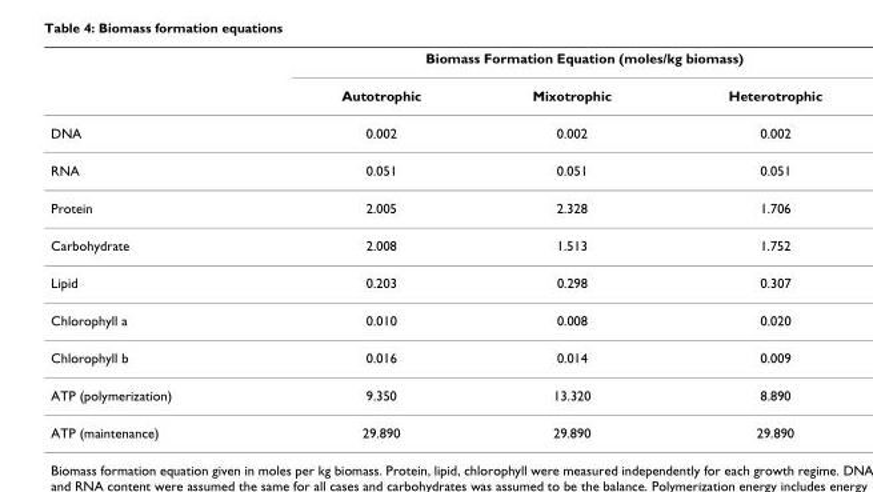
<table><thead><tr><td rowspan="2"></td><td colspan="3">Biomass Formation Equation (moles/kg biomass)</td></tr><tr><td>Autotrophic</td><td>Mixotrophic</td><td>Heterotrophic</td></tr></thead><tbody><tr><td>DNA</td><td>0.002</td><td>0.002</td><td>0.002</td></tr><tr><td>RNA</td><td>0.051</td><td>0.051</td><td>0.051</td></tr><tr><td>Protein</td><td>2.005</td><td>2.328</td><td>1.706</td></tr><tr><td>Carbohydrate</td><td>2.008</td><td>1.513</td><td>1.752</td></tr><tr><td>Lipid</td><td>0.203</td><td>0.298</td><td>0.307</td></tr><tr><td>Chlorophyll a</td><td>0.010</td><td>0.008</td><td>0.020</td></tr><tr><td>Chlorophyll b</td><td>0.016</td><td>0.014</td><td>0.009</td></tr><tr><td>ATP (polymerization)</td><td>9.350</td><td>13.320</td><td>8.890</td></tr><tr><td>ATP (maintenance)</td><td>29.890</td><td>29.890</td><td>29.890</td></tr></tbody></table>